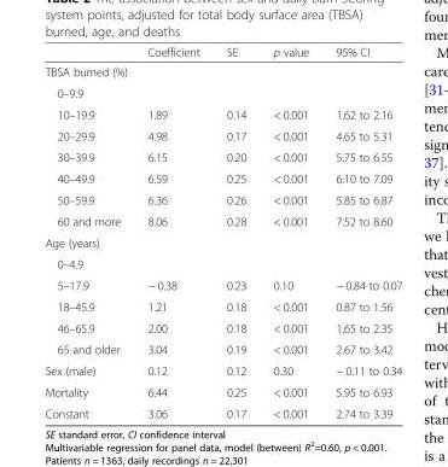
<table><thead><tr><td></td><td>Coefficient</td><td>SE</td><td>p value</td><td>95% CI</td></tr></thead><tbody><tr><td colspan="5">TBSA burned (%)</td></tr><tr><td colspan="5">0–9.9</td></tr><tr><td>10–19.9</td><td>1.89</td><td>0.14</td><td>&lt; 0.001</td><td>1.62 to 2.16</td></tr><tr><td>20–29.9</td><td>4.98</td><td>0.17</td><td>&lt; 0.001</td><td>4.65 to 5.31</td></tr><tr><td>30–39.9</td><td>6.15</td><td>0.20</td><td>&lt; 0.001</td><td>5.75 to 6.55</td></tr><tr><td>40–49.9</td><td>6.59</td><td>0.25</td><td>&lt; 0.001</td><td>6.10 to 7.09</td></tr><tr><td>50–59.9</td><td>6.36</td><td>0.26</td><td>&lt; 0.001</td><td>5.85 to 6.87</td></tr><tr><td>60 and more</td><td>8.06</td><td>0.28</td><td>&lt; 0.001</td><td>7.52 to 8.60</td></tr><tr><td colspan="5">Age (years)</td></tr><tr><td colspan="5">0–4.9</td></tr><tr><td>5–17.9</td><td>− 0.38</td><td>0.23</td><td>0.10</td><td>− 0.84 to 0.07</td></tr><tr><td>18–45.9</td><td>1.21</td><td>0.18</td><td>&lt; 0.001</td><td>0.87 to 1.56</td></tr><tr><td>46–65.9</td><td>2.00</td><td>0.18</td><td>&lt; 0.001</td><td>1.65 to 2.35</td></tr><tr><td>65 and older</td><td>3.04</td><td>0.19</td><td>&lt; 0.001</td><td>2.67 to 3.42</td></tr><tr><td>Sex (male)</td><td>0.12</td><td>0.12</td><td>0.30</td><td>− 0.11 to 0.34</td></tr><tr><td>Mortality</td><td>6.44</td><td>0.25</td><td>&lt; 0.001</td><td>5.95 to 6.93</td></tr><tr><td>Constant</td><td>3.06</td><td>0.17</td><td>&lt; 0.001</td><td>2.74 to 3.39</td></tr></tbody></table>